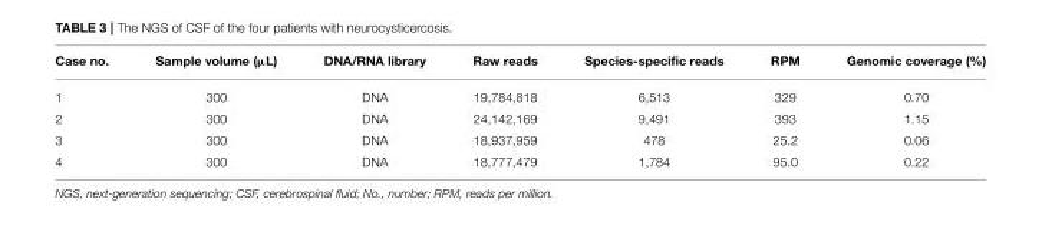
<table><thead><tr><td>Case no.</td><td>Sample volume (µL)</td><td>DNA/RNA library</td><td>Raw reads</td><td>Species-specific reads</td><td>RPM</td><td>Genomic coverage (%)</td></tr></thead><tbody><tr><td>1</td><td>300</td><td>DNA</td><td>19,784,818</td><td>6,513</td><td>329</td><td>0.70</td></tr><tr><td>2</td><td>300</td><td>DNA</td><td>24,142,169</td><td>9,491</td><td>393</td><td>1.15</td></tr><tr><td>3</td><td>300</td><td>DNA</td><td>18,937,959</td><td>478</td><td>25.2</td><td>0.06</td></tr><tr><td>4</td><td>300</td><td>DNA</td><td>18,777,479</td><td>1,784</td><td>95.0</td><td>0.22</td></tr></tbody></table>